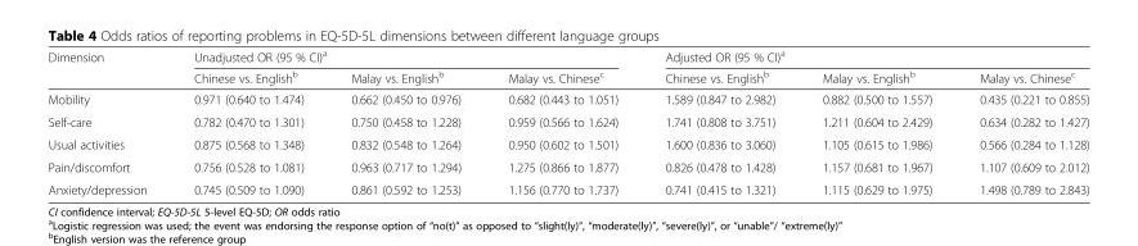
<table><thead><tr><td rowspan="2">Dimension</td><td colspan="3">Unadjusted OR (95 % CI)<sup>a</sup></td><td colspan="3">Adjusted OR (95 % CI)<sup>a</sup></td></tr><tr><td>Chinese vs. English<sup>b</sup></td><td>Malay vs. English<sup>b</sup></td><td>Malay vs. Chinese<sup>c</sup></td><td>Chinese vs. English<sup>b</sup></td><td>Malay vs. English<sup>b</sup></td><td>Malay vs. Chinese<sup>c</sup></td></tr></thead><tbody><tr><td>Mobility</td><td>0.971 (0.640 to 1.474)</td><td>0.662 (0.450 to 0.976)</td><td>0.682 (0.443 to 1.051)</td><td>1.589 (0.847 to 2.982)</td><td>0.882 (0.500 to 1.557)</td><td>0.435 (0.221 to 0.855)</td></tr><tr><td>Self-care</td><td>0.782 (0.470 to 1.301)</td><td>0.750 (0.458 to 1.228)</td><td>0.959 (0.566 to 1.624)</td><td>1.741 (0.808 to 3.751)</td><td>1.211 (0.604 to 2.429)</td><td>0.634 (0.282 to 1.427)</td></tr><tr><td>Usual activities</td><td>0.875 (0.568 to 1.348)</td><td>0.832 (0.548 to 1.264)</td><td>0.950 (0.602 to 1.501)</td><td>1.600 (0.836 to 3.060)</td><td>1.105 (0.615 to 1.986)</td><td>0.566 (0.284 to 1.128)</td></tr><tr><td>Pain/discomfort</td><td>0.756 (0.528 to 1.081)</td><td>0.963 (0.717 to 1.294)</td><td>1.275 (0.866 to 1.877)</td><td>0.826 (0.478 to 1.428)</td><td>1.157 (0.681 to 1.967)</td><td>1.107 (0.609 to 2.012)</td></tr><tr><td>Anxiety/depression</td><td>0.745 (0.509 to 1.090)</td><td>0.861 (0.592 to 1.253)</td><td>1.156 (0.770 to 1.737)</td><td>0.741 (0.415 to 1.321)</td><td>1.115 (0.629 to 1.975)</td><td>1.498 (0.789 to 2.843)</td></tr></tbody></table>